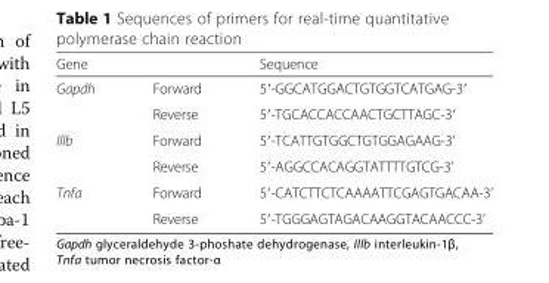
<table><thead><tr><td>Gene</td><td></td><td>Sequence</td></tr></thead><tbody><tr><td rowspan="2">Gapdh</td><td>Forward</td><td>5′-GGCATGGACTGTGGTCATGAG-3′</td></tr><tr><td>Reverse</td><td>5′-TGCACCACCAACTGCTTAGC-3′</td></tr><tr><td rowspan="2">Illb</td><td>Forward</td><td>5′-TCATTGTGGCTGTGGAGAAG-3’</td></tr><tr><td>Reverse</td><td>5′-AGGCCACAGGTATTTTGTCG-3’</td></tr><tr><td rowspan="2">Tnfa</td><td>Forward</td><td>5′-CATCTTCTCAAAATTCGAGTGACAA-3’</td></tr><tr><td>Reverse</td><td>5′-TGGGAGTAGACAAGGTACAACCC-3’</td></tr></tbody></table>